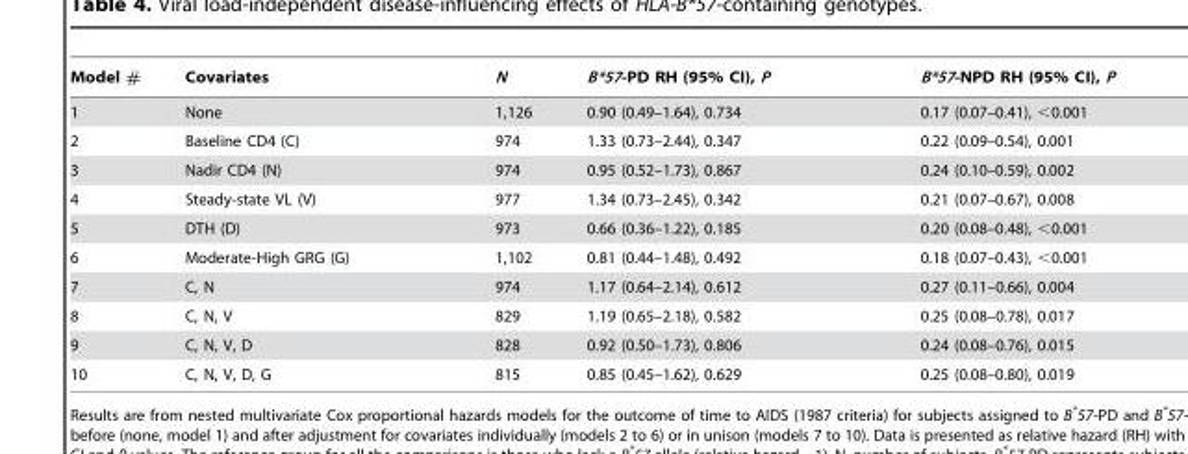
<table><thead><tr><td>Model #</td><td>Covariates</td><td>N</td><td>B*57-PD RH (95% CI), P</td><td>B*57-NPD RH (95% CI), P</td></tr></thead><tbody><tr><td>1</td><td>None</td><td>1,126</td><td>0.90 (0.49–1.64), 0.734</td><td>0.17 (0.07–0.41), &lt;0.001</td></tr><tr><td>2</td><td>Baseline CD4 (C)</td><td>974</td><td>1.33 (0.73–2.44), 0.347</td><td>0.22 (0.09–0.54), 0.001</td></tr><tr><td>3</td><td>Nadir CD4 (N)</td><td>974</td><td>0.95 (0.52–1.73), 0.867</td><td>0.24 (0.10–0.59), 0.002</td></tr><tr><td>4</td><td>Steady-state VL (V)</td><td>977</td><td>1.34 (0.73–2.45), 0.342</td><td>0.21 (0.07–0.67), 0.008</td></tr><tr><td>5</td><td>DTH (D)</td><td>973</td><td>0.66 (0.36–1.22), 0.185</td><td>0.20 (0.08–0.48), &lt;0.001</td></tr><tr><td>6</td><td>Moderate-High GRG (G)</td><td>1,102</td><td>0.81 (0.44–1.48), 0.492</td><td>0.18 (0.07–0.43), &lt;0.001</td></tr><tr><td>7</td><td>C, N</td><td>974</td><td>1.17 (0.64–2.14), 0.612</td><td>0.27 (0.11–0.66), 0.004</td></tr><tr><td>8</td><td>C, N, V</td><td>829</td><td>1.19 (0.65–2.18), 0.582</td><td>0.25 (0.08–0.78), 0.017</td></tr><tr><td>9</td><td>C, N, V, D</td><td>828</td><td>0.92 (0.50–1.73), 0.806</td><td>0.24 (0.08–0.76), 0.015</td></tr><tr><td>10</td><td>C, N, V, D, G</td><td>815</td><td>0.85 (0.45–1.62), 0.629</td><td>0.25 (0.08–0.80), 0.019</td></tr></tbody></table>